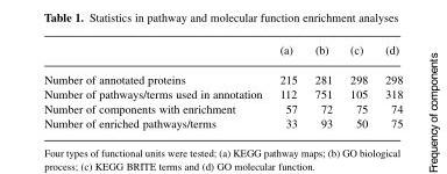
<table><thead><tr><td></td><td>(a)</td><td>(b)</td><td>(c)</td><td>(d)</td></tr></thead><tbody><tr><td>Number of annotated proteins</td><td>215</td><td>281</td><td>298</td><td>298</td></tr><tr><td>Number of pathways/terms used in annotation</td><td>112</td><td>751</td><td>105</td><td>318</td></tr><tr><td>Number of components with enrichment</td><td>57</td><td>72</td><td>75</td><td>74</td></tr><tr><td>Number of enriched pathways/terms</td><td>33</td><td>93</td><td>50</td><td>75</td></tr></tbody></table>